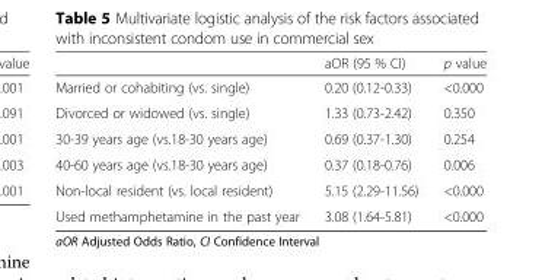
<table><thead><tr><td></td><td>aOR (95 % CI)</td><td>p value</td></tr></thead><tbody><tr><td>Married or cohabiting (vs. single)</td><td>0.20 (0.12-0.33)</td><td>&lt;0.000</td></tr><tr><td>Divorced or widowed (vs. single)</td><td>1.33 (0.73-2.42)</td><td>0.350</td></tr><tr><td>30-39 years age (vs.18-30 years age)</td><td>0.69 (0.37-1.30)</td><td>0.254</td></tr><tr><td>40-60 years age (vs.18-30 years age)</td><td>0.37 (0.18-0.76)</td><td>0.006</td></tr><tr><td>Non-local resident (vs. local resident)</td><td>5.15 (2.29-11.56)</td><td>&lt;0.000</td></tr><tr><td>Used methamphetamine in the past year</td><td>3.08 (1.64-5.81)</td><td>&lt;0.000</td></tr></tbody></table>